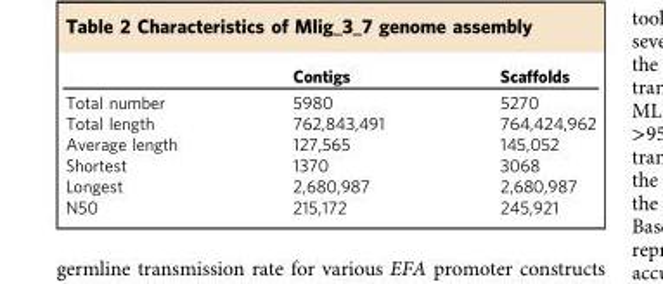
<table><thead><tr><td></td><td>Contigs</td><td>Scaffolds</td></tr></thead><tbody><tr><td>Total number</td><td>5980</td><td>5270</td></tr><tr><td>Total length</td><td>762,843,491</td><td>764,424,962</td></tr><tr><td>Average length</td><td>127,565</td><td>145,052</td></tr><tr><td>Shortest</td><td>1370</td><td>3068</td></tr><tr><td>Longest</td><td>2,680,987</td><td>2,680,987</td></tr><tr><td>N50</td><td>215,172</td><td>245,921</td></tr></tbody></table>